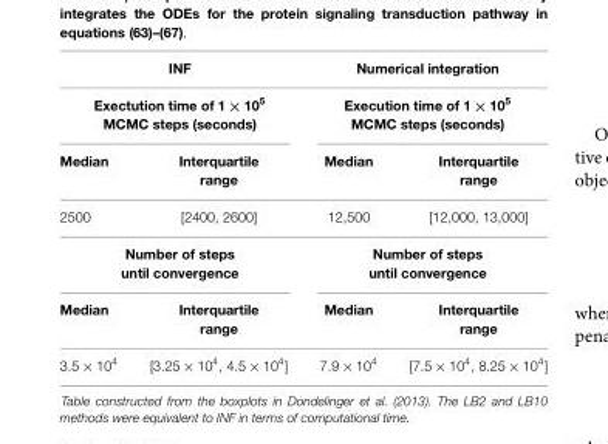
<table><thead><tr><td rowspan="2" colspan="2">INF Exectution time of 1 × 105 MCMC steps (seconds)</td><td rowspan="2" colspan="2">Numerical integration Execution time of 1 × 105 MCMC steps (seconds)</td></tr><tr></tr><tr><td>Median</td><td>Interquartile range</td><td>Median</td><td>Interquartile range</td></tr></thead><tbody><tr><td>2500</td><td>[2400, 2600]</td><td>12,500</td><td>[12,000, 13,000]</td></tr><tr><td colspan="2">Number of steps until convergence</td><td colspan="2">Number of steps until convergence</td></tr><tr><td>Median</td><td>Interquartile range</td><td>Median</td><td>Interquartile range</td></tr><tr><td>3.5 × 10<sup>4</sup></td><td>[3.25 × 10<sup>4</sup>, 4.5 × 10<sup>4</sup>]</td><td>7.9 × 10<sup>4</sup></td><td>[7.5 × 10<sup>4</sup>, 8.25 × 10<sup>4</sup>]</td></tr></tbody></table>